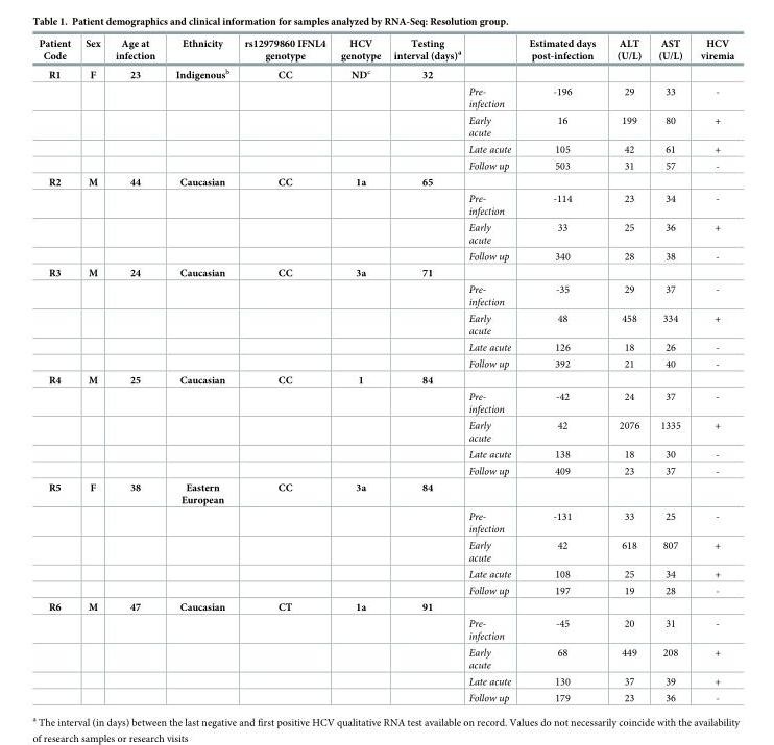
<table><thead><tr><td>Patient Code</td><td>Sex</td><td>Age at infection</td><td>Ethnicity</td><td>rs12979860 IFNL4 genotype</td><td>HCV genotype</td><td>Testing interval (days)<sup>a</sup></td><td></td><td>Estimated days post-infection</td><td>ALT (U/L)</td><td>AST (U/L)</td><td>HCV viremia</td></tr></thead><tbody><tr><td rowspan="5">R1</td><td>F</td><td>23</td><td>Indigenous<sup>b</sup></td><td>CC</td><td>ND<sup>c</sup></td><td>32</td><td></td><td></td><td></td><td></td><td></td></tr><tr><td></td><td></td><td></td><td></td><td></td><td></td><td>Pre- infection</td><td>-196</td><td>29</td><td>33</td><td>-</td></tr><tr><td></td><td></td><td></td><td></td><td></td><td></td><td>Early acute</td><td>16</td><td>199</td><td>80</td><td>+</td></tr><tr><td></td><td></td><td></td><td></td><td></td><td></td><td>Late acute</td><td>105</td><td>42</td><td>61</td><td>+</td></tr><tr><td></td><td></td><td></td><td></td><td></td><td></td><td>Follow up</td><td>503</td><td>31</td><td>57</td><td>-</td></tr><tr><td rowspan="4">R2</td><td>M</td><td>44</td><td>Caucasian</td><td>CC</td><td>1a</td><td>65</td><td></td><td></td><td></td><td></td><td></td></tr><tr><td></td><td></td><td></td><td></td><td></td><td></td><td>Pre- infection</td><td>-114</td><td>23</td><td>34</td><td>-</td></tr><tr><td></td><td></td><td></td><td></td><td></td><td></td><td>Early acute</td><td>33</td><td>25</td><td>36</td><td>+</td></tr><tr><td></td><td></td><td></td><td></td><td></td><td></td><td>Follow up</td><td>340</td><td>28</td><td>38</td><td>-</td></tr><tr><td rowspan="5">R3</td><td>M</td><td>24</td><td>Caucasian</td><td>CC</td><td>3a</td><td>71</td><td></td><td></td><td></td><td></td><td></td></tr><tr><td></td><td></td><td></td><td></td><td></td><td></td><td>Pre- infection</td><td>-35</td><td>29</td><td>37</td><td>-</td></tr><tr><td></td><td></td><td></td><td></td><td></td><td></td><td>Early acute</td><td>48</td><td>458</td><td>334</td><td>+</td></tr><tr><td></td><td></td><td></td><td></td><td></td><td></td><td>Late acute</td><td>126</td><td>18</td><td>26</td><td>-</td></tr><tr><td></td><td></td><td></td><td></td><td></td><td></td><td>Follow up</td><td>392</td><td>21</td><td>40</td><td>-</td></tr><tr><td rowspan="5">R4</td><td>M</td><td>25</td><td>Caucasian</td><td>CC</td><td>1</td><td>84</td><td></td><td></td><td></td><td></td><td></td></tr><tr><td></td><td></td><td></td><td></td><td></td><td></td><td>Pre- infection</td><td>-42</td><td>24</td><td>37</td><td>-</td></tr><tr><td></td><td></td><td></td><td></td><td></td><td></td><td>Early acute</td><td>42</td><td>2076</td><td>1335</td><td>+</td></tr><tr><td></td><td></td><td></td><td></td><td></td><td></td><td>Late acute</td><td>138</td><td>18</td><td>30</td><td>-</td></tr><tr><td></td><td></td><td></td><td></td><td></td><td></td><td>Follow up</td><td>409</td><td>23</td><td>37</td><td>-</td></tr><tr><td rowspan="5">R5</td><td>F</td><td>38</td><td>Eastern European</td><td>CC</td><td>3a</td><td>84</td><td></td><td></td><td></td><td></td><td></td></tr><tr><td></td><td></td><td></td><td></td><td></td><td></td><td>Pre- infection</td><td>-131</td><td>33</td><td>25</td><td>-</td></tr><tr><td></td><td></td><td></td><td></td><td></td><td></td><td>Early acute</td><td>42</td><td>618</td><td>807</td><td>+</td></tr><tr><td></td><td></td><td></td><td></td><td></td><td></td><td>Late acute</td><td>108</td><td>25</td><td>34</td><td>+</td></tr><tr><td></td><td></td><td></td><td></td><td></td><td></td><td>Follow up</td><td>197</td><td>19</td><td>28</td><td>-</td></tr><tr><td rowspan="5">R6</td><td>M</td><td>47</td><td>Caucasian</td><td>CT</td><td>1a</td><td>91</td><td></td><td></td><td></td><td></td><td></td></tr><tr><td></td><td></td><td></td><td></td><td></td><td></td><td>Pre- infection</td><td>-45</td><td>20</td><td>31</td><td>-</td></tr><tr><td></td><td></td><td></td><td></td><td></td><td></td><td>Early acute</td><td>68</td><td>449</td><td>208</td><td>+</td></tr><tr><td></td><td></td><td></td><td></td><td></td><td></td><td>Late acute</td><td>130</td><td>37</td><td>39</td><td>+</td></tr><tr><td></td><td></td><td></td><td></td><td></td><td></td><td>Follow up</td><td>179</td><td>23</td><td>36</td><td>-</td></tr></tbody></table>